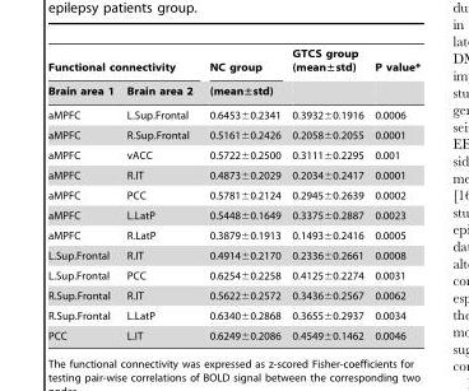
<table><thead><tr><td colspan="2">Functional connectivity</td><td rowspan="2">NC group (mean±std)</td><td rowspan="2">GTCS group (mean±std)</td><td rowspan="2">P value*</td></tr><tr><td>Brain area 1</td><td>Brain area 2</td></tr></thead><tbody><tr><td>aMPFC</td><td>L.Sup.Frontal</td><td>0.6453±0.2341</td><td>0.3932±0.1916</td><td>0.0006</td></tr><tr><td>aMPFC</td><td>R.Sup.Frontal</td><td>0.5161±0.2426</td><td>0.2058±0.2055</td><td>0.0001</td></tr><tr><td>aMPFC</td><td>vACC</td><td>0.5722±0.2500</td><td>0.3111±0.2295</td><td>0.001</td></tr><tr><td>aMPFC</td><td>R.IT</td><td>0.4873±0.2029</td><td>0.2034±0.2417</td><td>0.0001</td></tr><tr><td>aMPFC</td><td>PCC</td><td>0.5781±0.2124</td><td>0.2945±0.2639</td><td>0.0002</td></tr><tr><td>aMPFC</td><td>L.LatP</td><td>0.5448±0.1649</td><td>0.3375±0.2887</td><td>0.0023</td></tr><tr><td>aMPFC</td><td>R.LatP</td><td>0.3879±0.1913</td><td>0.1493±0.2416</td><td>0.0005</td></tr><tr><td>L.Sup.Frontal</td><td>R.IT</td><td>0.4914±0.2170</td><td>0.2336±0.2661</td><td>0.0008</td></tr><tr><td>L.Sup.Frontal</td><td>PCC</td><td>0.6254±0.2258</td><td>0.4125±0.2274</td><td>0.0031</td></tr><tr><td>R.Sup.Frontal</td><td>R.IT</td><td>0.5622±0.2572</td><td>0.3436±0.2567</td><td>0.0062</td></tr><tr><td>R.Sup.Frontal</td><td>L.LatP</td><td>0.6340±0.2868</td><td>0.3655±0.2937</td><td>0.0034</td></tr><tr><td>PCC</td><td>L.IT</td><td>0.6249±0.2086</td><td>0.4549±0.1462</td><td>0.0046</td></tr></tbody></table>